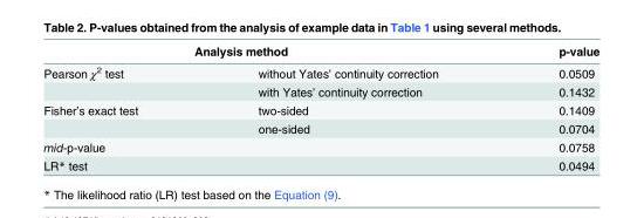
<table><thead><tr><td colspan="2">Analysis method</td><td rowspan="2">p-value 0.0509</td></tr><tr><td>Pearson χ<sup>2</sup> test</td><td>without Yates’ continuity correction</td></tr></thead><tbody><tr><td></td><td>with Yates’ continuity correction</td><td>0.1432</td></tr><tr><td rowspan="2">Fisher’s exact test</td><td>two-sided</td><td>0.1409</td></tr><tr><td>one-sided</td><td>0.0704</td></tr><tr><td>mid-p-value</td><td></td><td>0.0758</td></tr><tr><td>LR* test</td><td></td><td>0.0494</td></tr></tbody></table>